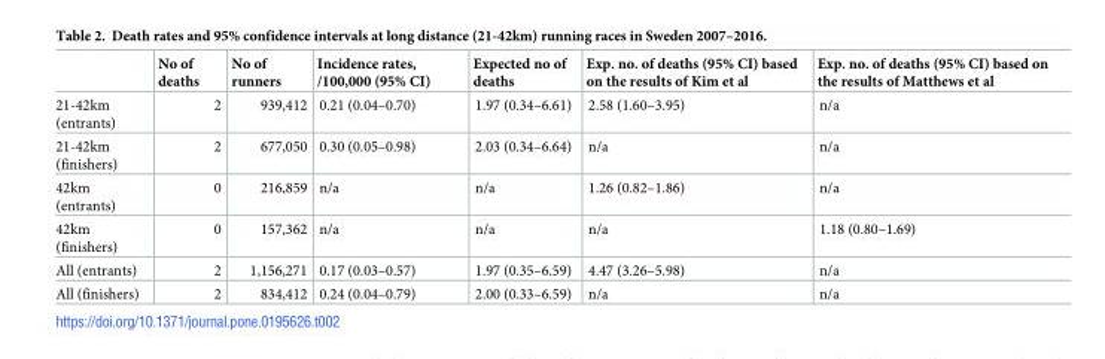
<table><thead><tr><td></td><td>No of deaths</td><td>No of runners</td><td>Incidence rates, /100,000 (95% CI)</td><td>Expected no of deaths</td><td>Exp. no. of deaths (95% CI) based on the results of Kim et al</td><td>Exp. no. of deaths (95% CI) based on the results of Matthews et al</td></tr></thead><tbody><tr><td>21-42km (entrants)</td><td>2</td><td>939,412</td><td>0.21 (0.04–0.70)</td><td>1.97 (0.34–6.61)</td><td>2.58 (1.60–3.95)</td><td>n/a</td></tr><tr><td>21-42km (finishers)</td><td>2</td><td>677,050</td><td>0.30 (0.05–0.98)</td><td>2.03 (0.34–6.64)</td><td>n/a</td><td>n/a</td></tr><tr><td>42km (entrants)</td><td>0</td><td>216,859</td><td>n/a</td><td>n/a</td><td>1.26 (0.82–1.86)</td><td>n/a</td></tr><tr><td>42km (finishers)</td><td>0</td><td>157,362</td><td>n/a</td><td>n/a</td><td>n/a</td><td>1.18 (0.80–1.69)</td></tr><tr><td>All (entrants)</td><td>2</td><td>1,156,271</td><td>0.17 (0.03–0.57)</td><td>1.97 (0.35–6.59)</td><td>4.47 (3.26–5.98)</td><td>n/a</td></tr><tr><td>All (finishers)</td><td>2</td><td>834,412</td><td>0.24 (0.04–0.79)</td><td>2.00 (0.33–6.59)</td><td>n/a</td><td>n/a</td></tr></tbody></table>